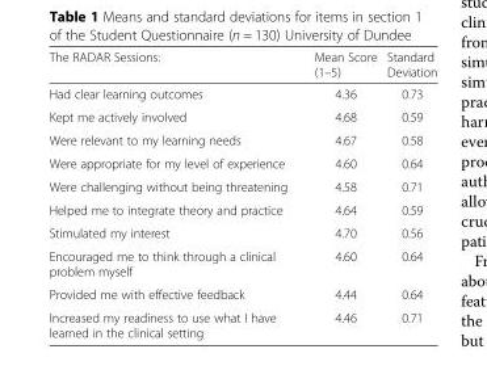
<table><thead><tr><td>The RADAR Sessions:</td><td>Mean Score (1–5)</td><td>Standard Deviation</td></tr></thead><tbody><tr><td>Had clear learning outcomes</td><td>4.36</td><td>0.73</td></tr><tr><td>Kept me actively involved</td><td>4.68</td><td>0.59</td></tr><tr><td>Were relevant to my learning needs</td><td>4.67</td><td>0.58</td></tr><tr><td>Were appropriate for my level of experience</td><td>4.60</td><td>0.64</td></tr><tr><td>Were challenging without being threatening</td><td>4.58</td><td>0.71</td></tr><tr><td>Helped me to integrate theory and practice</td><td>4.64</td><td>0.59</td></tr><tr><td>Stimulated my interest</td><td>4.70</td><td>0.56</td></tr><tr><td>Encouraged me to think through a clinical problem myself</td><td>4.60</td><td>0.64</td></tr><tr><td>Provided me with effective feedback</td><td>4.44</td><td>0.64</td></tr><tr><td>Increased my readiness to use what I have learned in the clinical setting</td><td>4.46</td><td>0.71</td></tr></tbody></table>